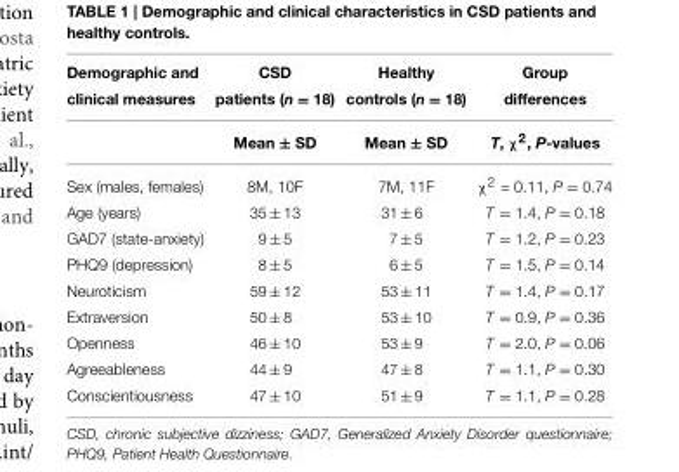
<table><thead><tr><td>Demographic and clinical measures</td><td>CSD patients (n = 18)</td><td>Healthy controls (n = 18)</td><td>Group differences</td></tr></thead><tbody><tr><td></td><td>Mean ± SD</td><td>Mean ± SD</td><td>T, χ<sup>2</sup>, P-values</td></tr><tr><td>Sex (males, females)</td><td>8M, 10F</td><td>7M, 11F</td><td>χ<sup>2</sup> = 0.11, P = 0.74</td></tr><tr><td>Age (years)</td><td>35 ± 13</td><td>31 ± 6</td><td>T = 1.4, P = 0.18</td></tr><tr><td>GAD7 (state-anxiety)</td><td>9 ± 5</td><td>7 ± 5</td><td>T = 1.2, P = 0.23</td></tr><tr><td>PHQ9 (depression)</td><td>8 ± 5</td><td>6 ± 5</td><td>T = 1.5, P = 0.14</td></tr><tr><td>Neuroticism</td><td>59 ± 12</td><td>53 ± 11</td><td>T = 1.4, P = 0.17</td></tr><tr><td>Extraversion</td><td>50 ± 8</td><td>53 ± 10</td><td>T = 0.9, P = 0.36</td></tr><tr><td>Openness</td><td>46 ± 10</td><td>53 ± 9</td><td>T = 2.0, P = 0.06</td></tr><tr><td>Agreeableness</td><td>44 ± 9</td><td>47 ± 8</td><td>T = 1.1, P = 0.30</td></tr><tr><td>Conscientiousness</td><td>47 ± 10</td><td>51 ± 9</td><td>T = 1.1, P = 0.28</td></tr></tbody></table>